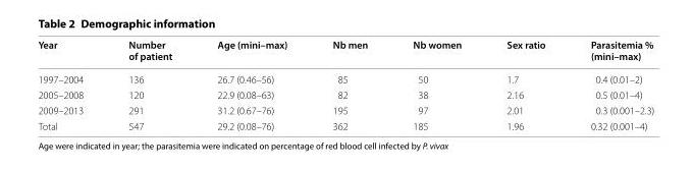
<table><thead><tr><td>Year</td><td>Number of patient</td><td>Age (mini–max)</td><td>Nb men</td><td>Nb women</td><td>Sex ratio</td><td>Parasitemia % (mini–max)</td></tr></thead><tbody><tr><td>1997–2004</td><td>136</td><td>26.7 (0.46–56)</td><td>85</td><td>50</td><td>1.7</td><td>0.4 (0.01–2)</td></tr><tr><td>2005–2008</td><td>120</td><td>22.9 (0.08–63)</td><td>82</td><td>38</td><td>2.16</td><td>0.5 (0.01–4)</td></tr><tr><td>2009–2013</td><td>291</td><td>31.2 (0.67–76)</td><td>195</td><td>97</td><td>2.01</td><td>0.3 (0.001–2.3)</td></tr><tr><td>Total</td><td>547</td><td>29.2 (0.08–76)</td><td>362</td><td>185</td><td>1.96</td><td>0.32 (0.001–4)</td></tr></tbody></table>